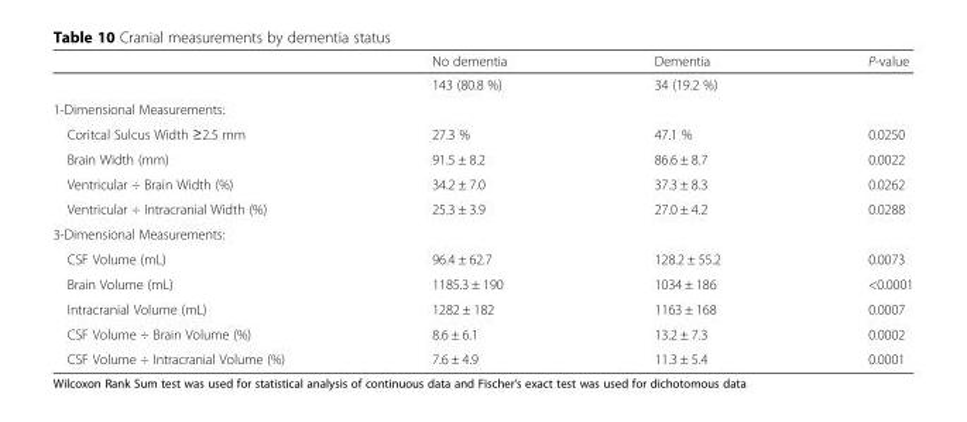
<table><thead><tr><td></td><td>No dementia</td><td>Dementia</td><td>P-value</td></tr></thead><tbody><tr><td></td><td>143 (80.8 %)</td><td>34 (19.2 %)</td><td></td></tr><tr><td colspan="4">1-Dimensional Measurements:</td></tr><tr><td>Coritcal Sulcus Width ≥2.5 mm</td><td>27.3 %</td><td>47.1 %</td><td>0.0250</td></tr><tr><td>Brain Width (mm)</td><td>91.5 ± 8.2</td><td>86.6 ± 8.7</td><td>0.0022</td></tr><tr><td>Ventricular ÷ Brain Width (%)</td><td>34.2 ± 7.0</td><td>37.3 ± 8.3</td><td>0.0262</td></tr><tr><td>Ventricular ÷ Intracranial Width (%)</td><td>25.3 ± 3.9</td><td>27.0 ± 4.2</td><td>0.0288</td></tr><tr><td colspan="4">3-Dimensional Measurements:</td></tr><tr><td>CSF Volume (mL)</td><td>96.4 ± 62.7</td><td>128.2 ± 55.2</td><td>0.0073</td></tr><tr><td>Brain Volume (mL)</td><td>1185.3 ± 190</td><td>1034 ± 186</td><td>&lt;0.0001</td></tr><tr><td>Intracranial Volume (mL)</td><td>1282 ± 182</td><td>1163 ± 168</td><td>0.0007</td></tr><tr><td>CSF Volume ÷ Brain Volume (%)</td><td>8.6 ± 6.1</td><td>13.2 ± 7.3</td><td>0.0002</td></tr><tr><td>CSF Volume ÷ Intracranial Volume (%)</td><td>7.6 ± 4.9</td><td>11.3 ± 5.4</td><td>0.0001</td></tr></tbody></table>